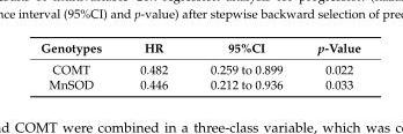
<table><thead><tr><td>Genotypes</td><td>HR</td><td>95%CI</td><td>p-Value</td></tr></thead><tbody><tr><td>COMT</td><td>0.482</td><td>0.259 to 0.899</td><td>0.022</td></tr><tr><td>MnSOD</td><td>0.446</td><td>0.212 to 0.936</td><td>0.033</td></tr></tbody></table>